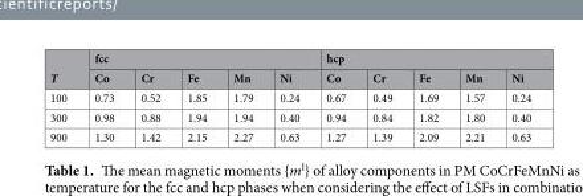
<table><thead><tr><td rowspan="2">T</td><td colspan="5">fcc</td><td colspan="5">hcp</td></tr><tr><td>Co</td><td>Cr</td><td>Fe</td><td>Mn</td><td>Ni</td><td>Co</td><td>Cr</td><td>Fe</td><td>Mn</td><td>Ni</td></tr></thead><tbody><tr><td>100</td><td>0.73</td><td>0.52</td><td>1.85</td><td>1.79</td><td>0.24</td><td>0.67</td><td>0.49</td><td>1.69</td><td>1.57</td><td>0.24</td></tr><tr><td>300</td><td>0.98</td><td>0.88</td><td>1.94</td><td>1.94</td><td>0.40</td><td>0.94</td><td>0.84</td><td>1.82</td><td>1.80</td><td>0.40</td></tr><tr><td>900</td><td>1.30</td><td>1.42</td><td>2.15</td><td>2.27</td><td>0.63</td><td>1.27</td><td>1.39</td><td>2.09</td><td>2.21</td><td>0.63</td></tr></tbody></table>